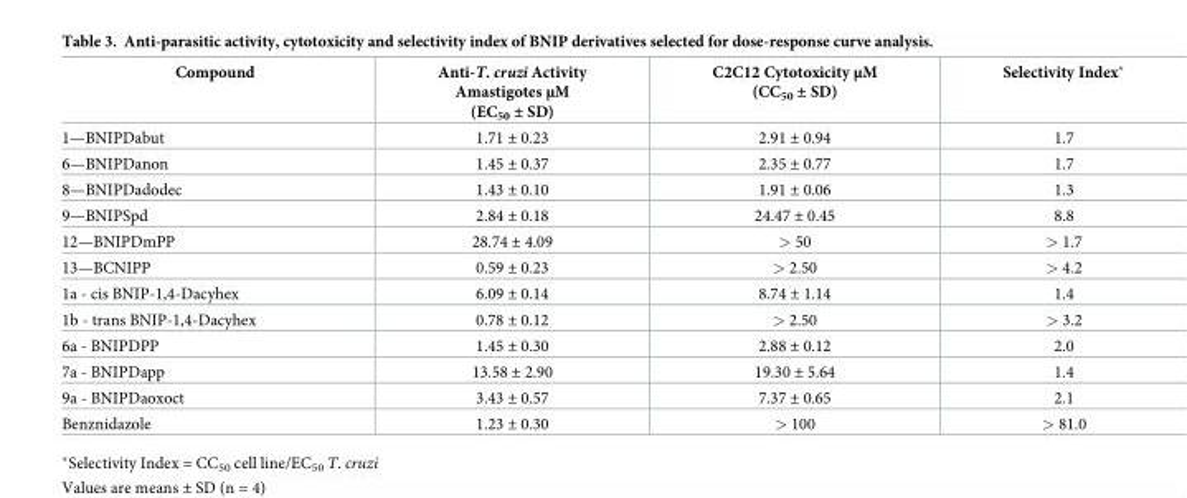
<table><thead><tr><td>Compound</td><td>Anti-T. cruzi Activity Amastigotes μM (EC<sub>50</sub> ± SD)</td><td>C2C12 Cytotoxicity μM (CC<sub>50</sub> ± SD)</td><td>Selectivity Index*</td></tr></thead><tbody><tr><td>1—BNIPDabut</td><td>1.71 ± 0.23</td><td>2.91 ± 0.94</td><td>1.7</td></tr><tr><td>6—BNIPDanon</td><td>1.45 ± 0.37</td><td>2.35 ± 0.77</td><td>1.7</td></tr><tr><td>8—BNIPDadodec</td><td>1.43 ± 0.10</td><td>1.91 ± 0.06</td><td>1.3</td></tr><tr><td>9—BNIPSpd</td><td>2.84 ± 0.18</td><td>24.47 ± 0.45</td><td>8.8</td></tr><tr><td>12—BNIPDmPP</td><td>28.74 ± 4.09</td><td>&gt; 50</td><td>&gt; 1.7</td></tr><tr><td>13—BCNIPP</td><td>0.59 ± 0.23</td><td>&gt; 2.50</td><td>&gt; 4.2</td></tr><tr><td>1a - cis BNIP-1,4-Dacyhex</td><td>6.09 ± 0.14</td><td>8.74 ± 1.14</td><td>1.4</td></tr><tr><td>1b - trans BNIP-1,4-Dacyhex</td><td>0.78 ± 0.12</td><td>&gt; 2.50</td><td>&gt; 3.2</td></tr><tr><td>6a - BNIPDPP</td><td>1.45 ± 0.30</td><td>2.88 ± 0.12</td><td>2.0</td></tr><tr><td>7a - BNIPDapp</td><td>13.58 ± 2.90</td><td>19.30 ± 5.64</td><td>1.4</td></tr><tr><td>9a - BNIPDaoxoct</td><td>3.43 ± 0.57</td><td>7.37 ± 0.65</td><td>2.1</td></tr><tr><td>Benznidazole</td><td>1.23 ± 0.30</td><td>&gt; 100</td><td>&gt; 81.0</td></tr></tbody></table>